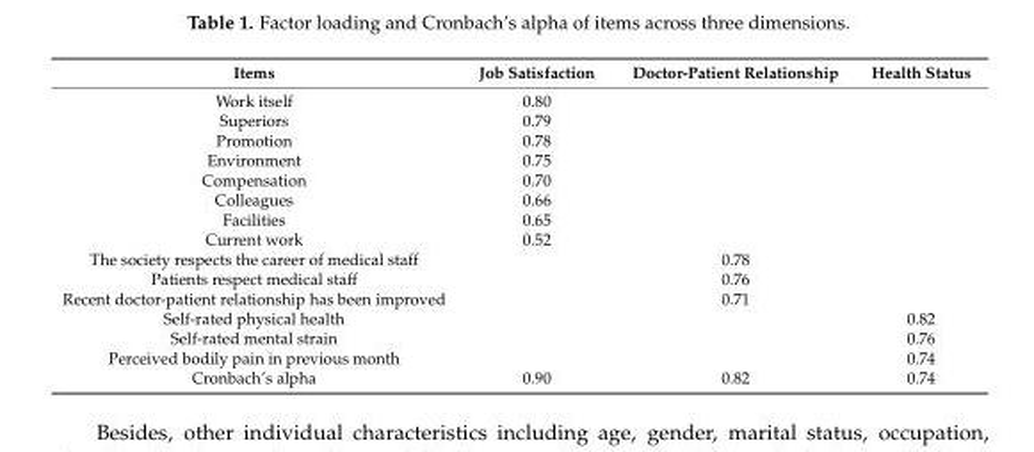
<table><thead><tr><td>Items</td><td>Job Satisfaction</td><td>Doctor-Patient Relationship</td><td>Health Status</td></tr></thead><tbody><tr><td>Work itself</td><td>0.80</td><td></td><td></td></tr><tr><td>Superiors</td><td>0.79</td><td></td><td></td></tr><tr><td>Promotion</td><td>0.78</td><td></td><td></td></tr><tr><td>Environment</td><td>0.75</td><td></td><td></td></tr><tr><td>Compensation</td><td>0.70</td><td></td><td></td></tr><tr><td>Colleagues</td><td>0.66</td><td></td><td></td></tr><tr><td>Facilities</td><td>0.65</td><td></td><td></td></tr><tr><td>Current work</td><td>0.52</td><td></td><td></td></tr><tr><td>The society respects the career of medical staff</td><td></td><td>0.78</td><td></td></tr><tr><td>Patients respect medical staff</td><td></td><td>0.76</td><td></td></tr><tr><td>Recent doctor-patient relationship has been improved</td><td></td><td>0.71</td><td></td></tr><tr><td>Self-rated physical health</td><td></td><td></td><td>0.82</td></tr><tr><td>Self-rated mental strain</td><td></td><td></td><td>0.76</td></tr><tr><td>Perceived bodily pain in previous month</td><td></td><td></td><td>0.74</td></tr><tr><td>Cronbach’s alpha</td><td>0.90</td><td>0.82</td><td>0.74</td></tr></tbody></table>